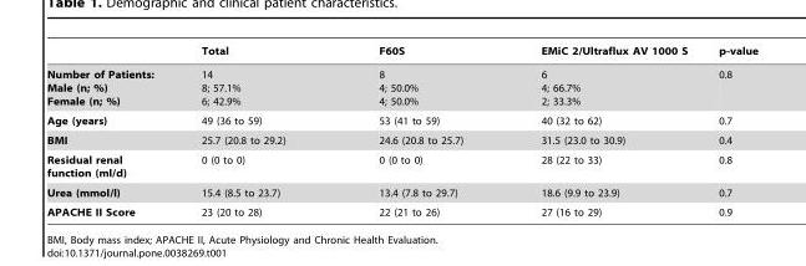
<table><thead><tr><td></td><td>Total</td><td>F60S</td><td>EMiC 2/Ultraflux AV 1000 S</td><td>p-value</td></tr></thead><tbody><tr><td>Number of Patients: Male (n; %) Female (n; %)</td><td>14 8; 57.1% 6; 42.9%</td><td>8 4; 50.0% 4; 50.0%</td><td>6 4; 66.7% 2; 33.3%</td><td>0.8</td></tr><tr><td>Age (years)</td><td>49 (36 to 59)</td><td>53 (41 to 59)</td><td>40 (32 to 62)</td><td>0.7</td></tr><tr><td>BMI</td><td>25.7 (20.8 to 29.2)</td><td>24.6 (20.8 to 25.7)</td><td>31.5 (23.0 to 30.9)</td><td>0.4</td></tr><tr><td>Residual renal function (ml/d)</td><td>0 (0 to 0)</td><td>0 (0 to 0)</td><td>28 (22 to 33)</td><td>0.8</td></tr><tr><td>Urea (mmol/l)</td><td>15.4 (8.5 to 23.7)</td><td>13.4 (7.8 to 29.7)</td><td>18.6 (9.9 to 23.9)</td><td>0.7</td></tr><tr><td>APACHE II Score</td><td>23 (20 to 28)</td><td>22 (21 to 26)</td><td>27 (16 to 29)</td><td>0.9</td></tr></tbody></table>